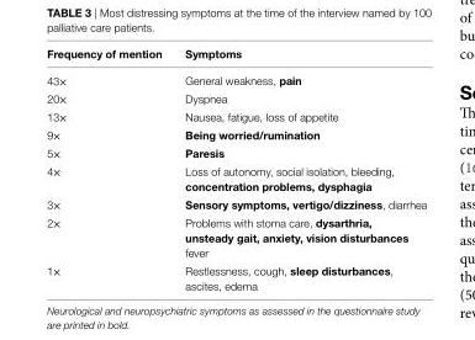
<table><thead><tr><td>Frequency of mention</td><td>symptoms</td></tr></thead><tbody><tr><td>43×</td><td>General weakness, pain</td></tr><tr><td>20×</td><td>Dyspnea</td></tr><tr><td>13×</td><td>Nausea, fatigue, loss of appetite</td></tr><tr><td>9×</td><td>Being worried/rumination</td></tr><tr><td>5×</td><td>Paresis</td></tr><tr><td>4×</td><td>Loss of autonomy, social isolation, bleeding, concentration problems, dysphagia</td></tr><tr><td>3×</td><td>sensory symptoms, vertigo/dizziness, diarrhea</td></tr><tr><td>2×</td><td>Problems with stoma care, dysarthria, unsteady gait, anxiety, vision disturbances fever</td></tr><tr><td>1×</td><td>Restlessness, cough, sleep disturbances, ascites, edema</td></tr></tbody></table>